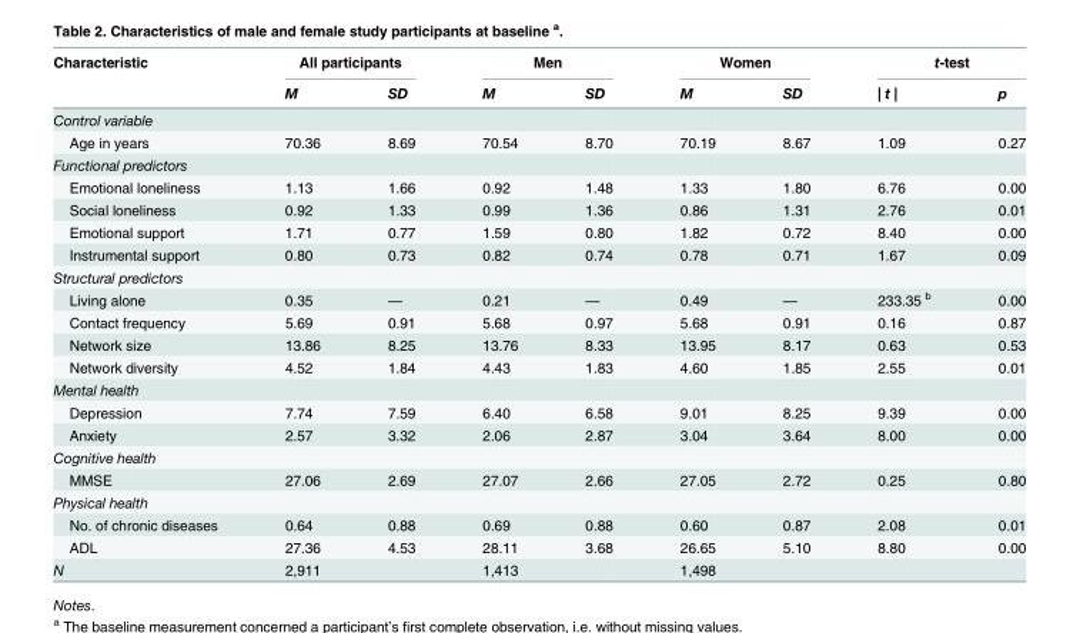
<table><thead><tr><td rowspan="2">Characteristic</td><td colspan="2">All participants</td><td colspan="2">Men</td><td colspan="2">Women</td><td colspan="2">t-test</td></tr><tr><td>M</td><td>SD</td><td>M</td><td>SD</td><td>M</td><td>SD</td><td>| t |</td><td>p</td></tr></thead><tbody><tr><td colspan="9">Control variable</td></tr><tr><td>Age in years</td><td>70.36</td><td>8.69</td><td>70.54</td><td>8.70</td><td>70.19</td><td>8.67</td><td>1.09</td><td>0.27</td></tr><tr><td colspan="9">Functional predictors</td></tr><tr><td>Emotional loneliness</td><td>1.13</td><td>1.66</td><td>0.92</td><td>1.48</td><td>1.33</td><td>1.80</td><td>6.76</td><td>0.00</td></tr><tr><td>Social loneliness</td><td>0.92</td><td>1.33</td><td>0.99</td><td>1.36</td><td>0.86</td><td>1.31</td><td>2.76</td><td>0.01</td></tr><tr><td>Emotional support</td><td>1.71</td><td>0.77</td><td>1.59</td><td>0.80</td><td>1.82</td><td>0.72</td><td>8.40</td><td>0.00</td></tr><tr><td>Instrumental support</td><td>0.80</td><td>0.73</td><td>0.82</td><td>0.74</td><td>0.78</td><td>0.71</td><td>1.67</td><td>0.09</td></tr><tr><td colspan="9">Structural predictors</td></tr><tr><td>Living alone</td><td>0.35</td><td>—</td><td>0.21</td><td>—</td><td>0.49</td><td>—</td><td>233.35 <sup>b</sup></td><td>0.00</td></tr><tr><td>Contact frequency</td><td>5.69</td><td>0.91</td><td>5.68</td><td>0.97</td><td>5.68</td><td>0.91</td><td>0.16</td><td>0.87</td></tr><tr><td>Network size</td><td>13.86</td><td>8.25</td><td>13.76</td><td>8.33</td><td>13.95</td><td>8.17</td><td>0.63</td><td>0.53</td></tr><tr><td>Network diversity</td><td>4.52</td><td>1.84</td><td>4.43</td><td>1.83</td><td>4.60</td><td>1.85</td><td>2.55</td><td>0.01</td></tr><tr><td colspan="9">Mental health</td></tr><tr><td>Depression</td><td>7.74</td><td>7.59</td><td>6.40</td><td>6.58</td><td>9.01</td><td>8.25</td><td>9.39</td><td>0.00</td></tr><tr><td>Anxiety</td><td>2.57</td><td>3.32</td><td>2.06</td><td>2.87</td><td>3.04</td><td>3.64</td><td>8.00</td><td>0.00</td></tr><tr><td colspan="9">Cognitive health</td></tr><tr><td>MMSE</td><td>27.06</td><td>2.69</td><td>27.07</td><td>2.66</td><td>27.05</td><td>2.72</td><td>0.25</td><td>0.80</td></tr><tr><td colspan="9">Physical health</td></tr><tr><td>No. of chronic diseases</td><td>0.64</td><td>0.88</td><td>0.69</td><td>0.88</td><td>0.60</td><td>0.87</td><td>2.08</td><td>0.01</td></tr><tr><td>ADL</td><td>27.36</td><td>4.53</td><td>28.11</td><td>3.68</td><td>26.65</td><td>5.10</td><td>8.80</td><td>0.00</td></tr><tr><td>N</td><td>2,911</td><td></td><td>1,413</td><td></td><td>1,498</td><td></td><td></td><td></td></tr></tbody></table>